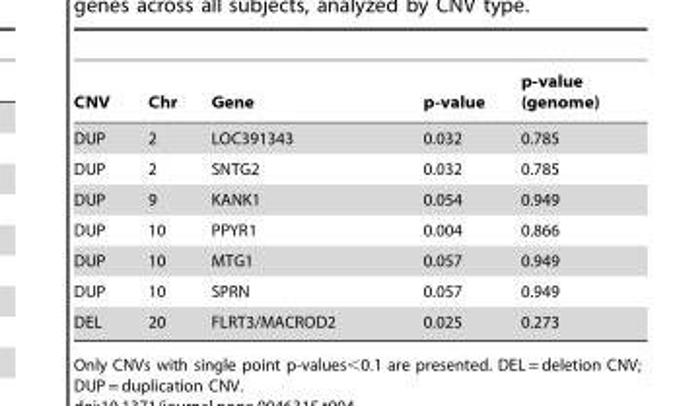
<table><thead><tr><td>CNV</td><td>Chr</td><td>Gene</td><td>p-value</td><td>p-value (genome)</td></tr></thead><tbody><tr><td>DUP</td><td>2</td><td>LOC391343</td><td>0.032</td><td>0.785</td></tr><tr><td>DUP</td><td>2</td><td>SNTG2</td><td>0.032</td><td>0.785</td></tr><tr><td>DUP</td><td>9</td><td>KANK1</td><td>0.054</td><td>0.949</td></tr><tr><td>DUP</td><td>10</td><td>PPYR1</td><td>0.004</td><td>0.866</td></tr><tr><td>DUP</td><td>10</td><td>MTG1</td><td>0.057</td><td>0.949</td></tr><tr><td>DUP</td><td>10</td><td>SPRN</td><td>0.057</td><td>0.949</td></tr><tr><td>DEL</td><td>20</td><td>FLRT3/MACROD2</td><td>0.025</td><td>0.273</td></tr></tbody></table>